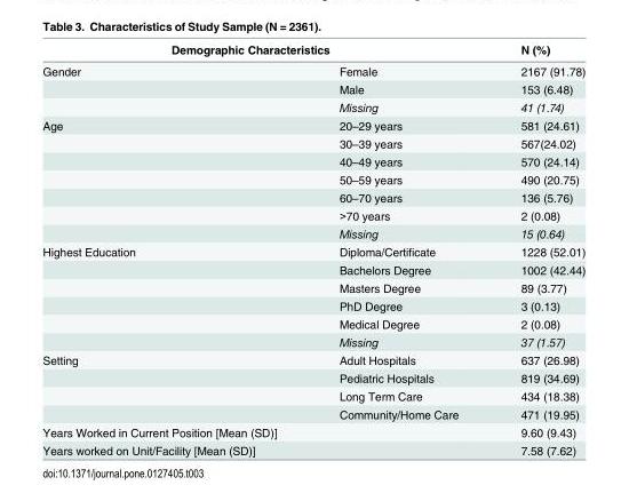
<table><thead><tr><td colspan="2">Demographic Characteristics</td><td rowspan="2">N (%) 2167 (91.78)</td></tr><tr><td>Gender</td><td>Female</td></tr></thead><tbody><tr><td></td><td>Male</td><td>153 (6.48)</td></tr><tr><td></td><td>Missing</td><td>41 (1.74)</td></tr><tr><td rowspan="7">Age</td><td>20–29 years</td><td>581 (24.61)</td></tr><tr><td>30–39 years</td><td>567(24.02)</td></tr><tr><td>40–49 years</td><td>570 (24.14)</td></tr><tr><td>50–59 years</td><td>490 (20.75)</td></tr><tr><td>60–70 years</td><td>136 (5.76)</td></tr><tr><td>&gt;70 years</td><td>2 (0.08)</td></tr><tr><td>Missing</td><td>15 (0.64)</td></tr><tr><td rowspan="6">Highest Education</td><td>Diploma/Certificate</td><td>1228 (52.01)</td></tr><tr><td>Bachelors Degree</td><td>1002 (42.44)</td></tr><tr><td>Masters Degree</td><td>89 (3.77)</td></tr><tr><td>PhD Degree</td><td>3 (0.13)</td></tr><tr><td>Medical Degree</td><td>2 (0.08)</td></tr><tr><td>Missing</td><td>37 (1.57)</td></tr><tr><td rowspan="4">Setting</td><td>Adult Hospitals</td><td>637 (26.98)</td></tr><tr><td>Pediatric Hospitals</td><td>819 (34.69)</td></tr><tr><td>Long Term Care</td><td>434 (18.38)</td></tr><tr><td>Community/Home Care</td><td>471 (19.95)</td></tr><tr><td>Years Worked in Current Position [Mean (SD)]</td><td></td><td>9.60 (9.43)</td></tr><tr><td>Years worked on Unit/Facility [Mean (SD)]</td><td></td><td>7.58 (7.62)</td></tr></tbody></table>